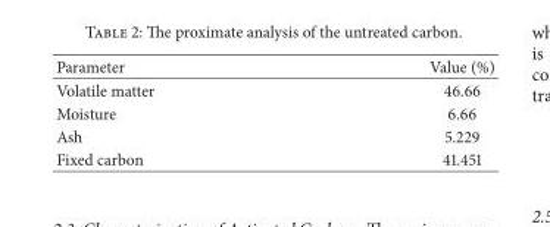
<table><thead><tr><td>Parameter</td><td>Value (%)</td></tr></thead><tbody><tr><td>Volatile matter</td><td>46.66</td></tr><tr><td>Moisture</td><td>6.66</td></tr><tr><td>Ash</td><td>5.229</td></tr><tr><td>Fixed carbon</td><td>41.451</td></tr></tbody></table>